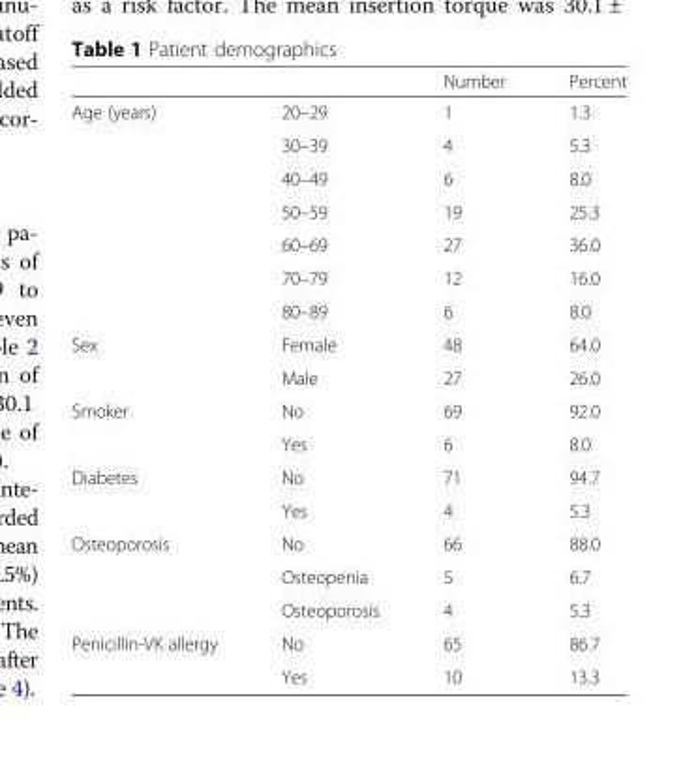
<table><thead><tr><td></td><td></td><td>Number</td><td>Percent</td></tr></thead><tbody><tr><td rowspan="7">Age (years)</td><td>20–29</td><td>1</td><td>1.3</td></tr><tr><td>30–39</td><td>4</td><td>5.3</td></tr><tr><td>40–49</td><td>6</td><td>8.0</td></tr><tr><td>50–59</td><td>19</td><td>25.3</td></tr><tr><td>60–69</td><td>27</td><td>36.0</td></tr><tr><td>70–79</td><td>12</td><td>16.0</td></tr><tr><td>80–89</td><td>6</td><td>8.0</td></tr><tr><td rowspan="2">Sex</td><td>Female</td><td>48</td><td>64.0</td></tr><tr><td>Male</td><td>27</td><td>26.0</td></tr><tr><td rowspan="2">Smoker</td><td>No</td><td>69</td><td>92.0</td></tr><tr><td>Yes</td><td>6</td><td>8.0</td></tr><tr><td rowspan="2">Diabetes</td><td>No</td><td>71</td><td>94.7</td></tr><tr><td>Yes</td><td>4</td><td>5.3</td></tr><tr><td rowspan="3">Osteoporosis</td><td>No</td><td>66</td><td>88.0</td></tr><tr><td>Osteopenia</td><td>5</td><td>6.7</td></tr><tr><td>Osteoporosis</td><td>4</td><td>5.3</td></tr><tr><td rowspan="2">Penicillin-VK allergy</td><td>No</td><td>65</td><td>86.7</td></tr><tr><td>Yes</td><td>10</td><td>13.3</td></tr></tbody></table>